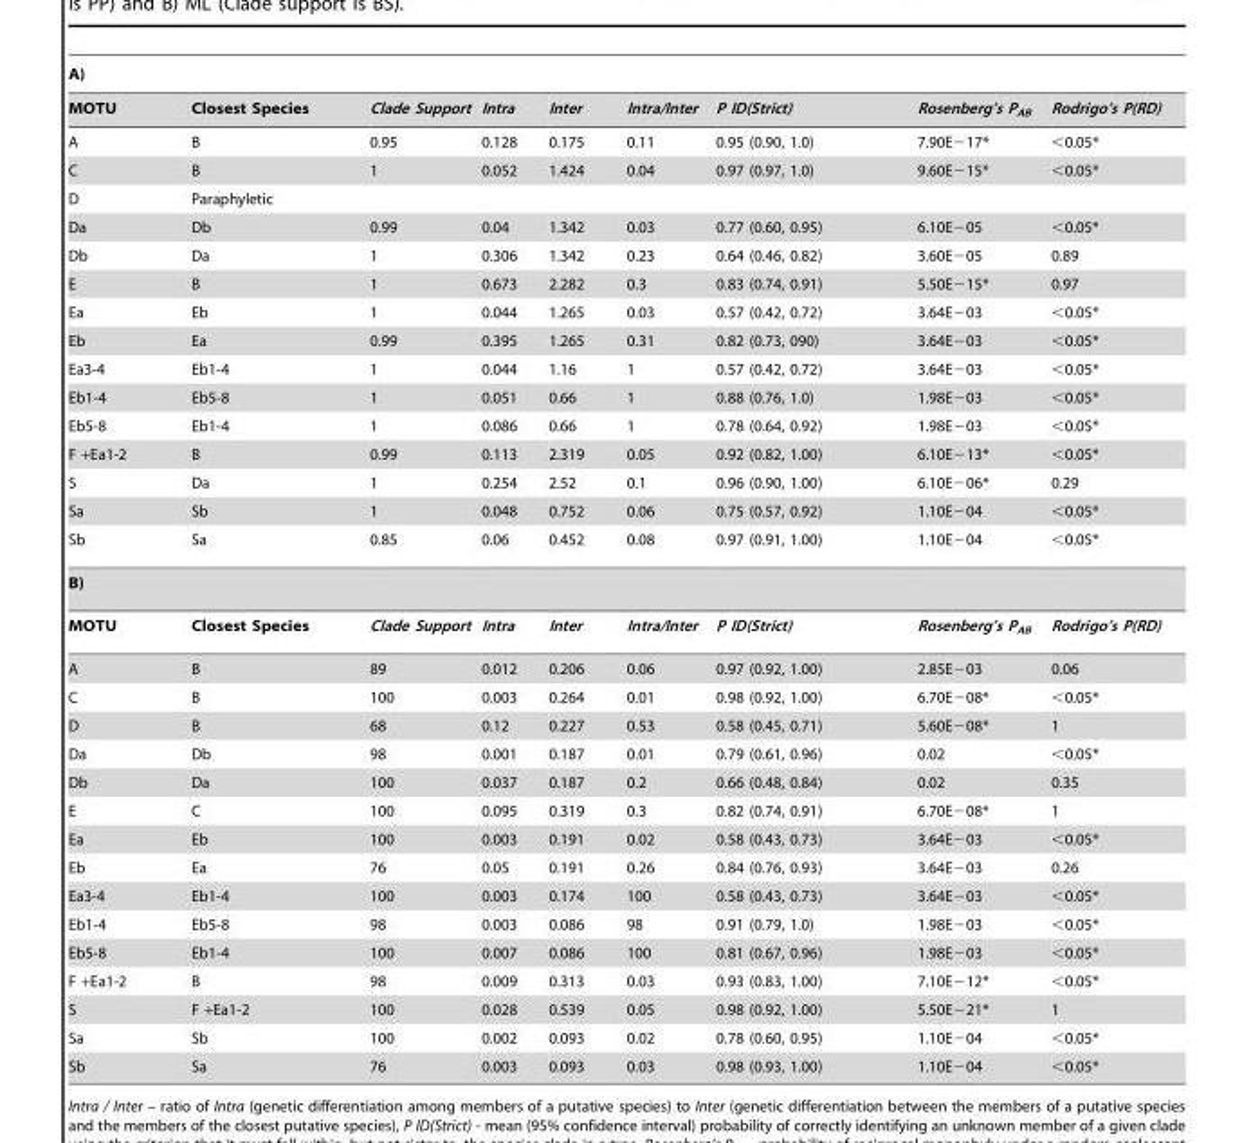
<table><thead><tr><td colspan="9">A)</td></tr><tr><td>MOTU</td><td>Closest Species</td><td>Clade Support</td><td>Intra</td><td>Inter</td><td>Intra/Inter</td><td>P ID(Strict)</td><td>Rosenberg’s P<sub>AB</sub></td><td>Rodrigo’s P(RD)</td></tr></thead><tbody><tr><td>A</td><td>B</td><td>0.95</td><td>0.128</td><td>0.175</td><td>0.11</td><td>0.95 (0.90, 1.0)</td><td>7.90E−17*</td><td>&lt;0.05*</td></tr><tr><td>C</td><td>B</td><td>1</td><td>0.052</td><td>1.424</td><td>0.04</td><td>0.97 (0.97, 1.0)</td><td>9.60E−15*</td><td>&lt;0.05*</td></tr><tr><td>D</td><td colspan="8">Paraphyletic</td></tr><tr><td>Da</td><td>Db</td><td>0.99</td><td>0.04</td><td>1.342</td><td>0.03</td><td>0.77 (0.60, 0.95)</td><td>6.10E−05</td><td>&lt;0.05*</td></tr><tr><td>Db</td><td>Da</td><td>1</td><td>0.306</td><td>1.342</td><td>0.23</td><td>0.64 (0.46, 0.82)</td><td>3.60E−05</td><td>0.89</td></tr><tr><td>E</td><td>B</td><td>1</td><td>0.673</td><td>2.282</td><td>0.3</td><td>0.83 (0.74, 0.91)</td><td>5.50E−15*</td><td>0.97</td></tr><tr><td>Ea</td><td>Eb</td><td>1</td><td>0.044</td><td>1.265</td><td>0.03</td><td>0.57 (0.42, 0.72)</td><td>3.64E−03</td><td>&lt;0.05*</td></tr><tr><td>Eb</td><td>Ea</td><td>0.99</td><td>0.395</td><td>1.265</td><td>0.31</td><td>0.82 (0.73, 090)</td><td>3.64E−03</td><td>&lt;0.05*</td></tr><tr><td>Ea3-4</td><td>Eb1-4</td><td>1</td><td>0.044</td><td>1.16</td><td>1</td><td>0.57 (0.42, 0.72)</td><td>3.64E−03</td><td>&lt;0.05*</td></tr><tr><td>Eb1-4</td><td>Eb5-8</td><td>1</td><td>0.051</td><td>0.66</td><td>1</td><td>0.88 (0.76, 1.0)</td><td>1.98E−03</td><td>&lt;0.05*</td></tr><tr><td>Eb5-8</td><td>Eb1-4</td><td>1</td><td>0.086</td><td>0.66</td><td>1</td><td>0.78 (0.64, 0.92)</td><td>1.98E−03</td><td>&lt;0.05*</td></tr><tr><td>F +Ea1-2</td><td>B</td><td>0.99</td><td>0.113</td><td>2.319</td><td>0.05</td><td>0.92 (0.82, 1.00)</td><td>6.10E−13*</td><td>&lt;0.05*</td></tr><tr><td>S</td><td>Da</td><td>1</td><td>0.254</td><td>2.52</td><td>0.1</td><td>0.96 (0.90, 1.00)</td><td>6.10E−06*</td><td>0.29</td></tr><tr><td>Sa</td><td>Sb</td><td>1</td><td>0.048</td><td>0.752</td><td>0.06</td><td>0.75 (0.57, 0.92)</td><td>1.10E−04</td><td>&lt;0.05*</td></tr><tr><td>Sb</td><td>Sa</td><td>0.85</td><td>0.06</td><td>0.452</td><td>0.08</td><td>0.97 (0.91, 1.00)</td><td>1.10E−04</td><td>&lt;0.05*</td></tr><tr><td colspan="9">B)</td></tr><tr><td>MOTU</td><td>Closest Species</td><td>Clade Support</td><td>Intra</td><td>Inter</td><td>Intra/Inter</td><td>P ID(Strict)</td><td>Rosenberg’s P<sub>AB</sub></td><td>Rodrigo’s P(RD)</td></tr><tr><td>A</td><td>B</td><td>89</td><td>0.012</td><td>0.206</td><td>0.06</td><td>0.97 (0.92, 1.00)</td><td>2.85E−03</td><td>0.06</td></tr><tr><td>C</td><td>B</td><td>100</td><td>0.003</td><td>0.264</td><td>0.01</td><td>0.98 (0.92, 1.00)</td><td>6.70E−08*</td><td>&lt;0.05*</td></tr><tr><td>D</td><td>B</td><td>68</td><td>0.12</td><td>0.227</td><td>0.53</td><td>0.58 (0.45, 0.71)</td><td>5.60E−08*</td><td>1</td></tr><tr><td>Da</td><td>Db</td><td>98</td><td>0.001</td><td>0.187</td><td>0.01</td><td>0.79 (0.61, 0.96)</td><td>0.02</td><td>&lt;0.05*</td></tr><tr><td>Db</td><td>Da</td><td>100</td><td>0.037</td><td>0.187</td><td>0.2</td><td>0.66 (0.48, 0.84)</td><td>0.02</td><td>0.35</td></tr><tr><td>E</td><td>C</td><td>100</td><td>0.095</td><td>0.319</td><td>0.3</td><td>0.82 (0.74, 0.91)</td><td>6.70E−08*</td><td>1</td></tr><tr><td>Ea</td><td>Eb</td><td>100</td><td>0.003</td><td>0.191</td><td>0.02</td><td>0.58 (0.43, 0.73)</td><td>3.64E−03</td><td>&lt;0.05*</td></tr><tr><td>Eb</td><td>Ea</td><td>76</td><td>0.05</td><td>0.191</td><td>0.26</td><td>0.84 (0.76, 0.93)</td><td>3.64E−03</td><td>0.26</td></tr><tr><td>Ea3-4</td><td>Eb1-4</td><td>100</td><td>0.003</td><td>0.174</td><td>100</td><td>0.58 (0.43, 0.73)</td><td>3.64E−03</td><td>&lt;0.05*</td></tr><tr><td>Eb1-4</td><td>Eb5-8</td><td>98</td><td>0.003</td><td>0.086</td><td>98</td><td>0.91 (0.79, 1.0)</td><td>1.98E−03</td><td>&lt;0.05*</td></tr><tr><td>Eb5-8</td><td>Eb1-4</td><td>100</td><td>0.007</td><td>0.086</td><td>100</td><td>0.81 (0.67, 0.96)</td><td>1.98E−03</td><td>&lt;0.05*</td></tr><tr><td>F +Ea1-2</td><td>B</td><td>98</td><td>0.009</td><td>0.313</td><td>0.03</td><td>0.93 (0.83, 1.00)</td><td>7.10E−12*</td><td>&lt;0.05*</td></tr><tr><td>S</td><td>F +Ea1-2</td><td>100</td><td>0.028</td><td>0.539</td><td>0.05</td><td>0.98 (0.92, 1.00)</td><td>5.50E−21*</td><td>1</td></tr><tr><td>Sa</td><td>Sb</td><td>100</td><td>0.002</td><td>0.093</td><td>0.02</td><td>0.78 (0.60, 0.95)</td><td>1.10E−04</td><td>&lt;0.05*</td></tr><tr><td>Sb</td><td>Sa</td><td>76</td><td>0.003</td><td>0.093</td><td>0.03</td><td>0.98 (0.93, 1.00)</td><td>1.10E−04</td><td>&lt;0.05*</td></tr></tbody></table>